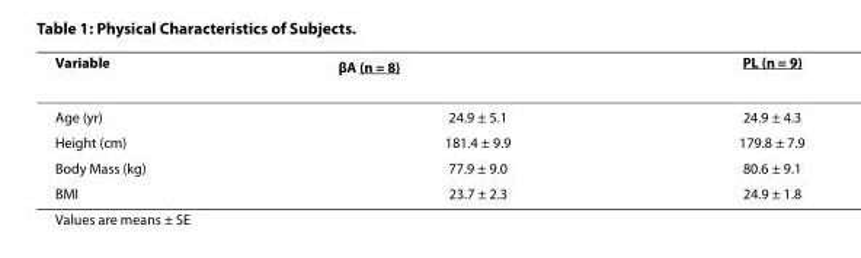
<table><thead><tr><td>Variable</td><td>βA (n = 8)</td><td>PL (n = 9)</td></tr></thead><tbody><tr><td>Age (yr)</td><td>24.9 ± 5.1</td><td>24.9 ± 4.3</td></tr><tr><td>Height (cm)</td><td>181.4 ± 9.9</td><td>179.8 ± 7.9</td></tr><tr><td>Body Mass (kg)</td><td>77.9 ± 9.0</td><td>80.6 ± 9.1</td></tr><tr><td>BMI</td><td>23.7 ± 2.3</td><td>24.9 ± 1.8</td></tr></tbody></table>